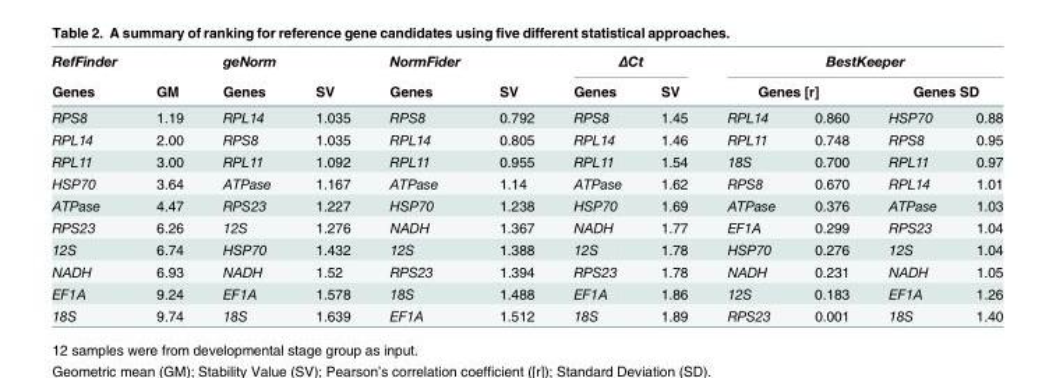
<table><thead><tr><td rowspan="3">RefFinder Genes RPS8</td><td rowspan="3">GM 1.19</td><td rowspan="3">geNorm Genes RPL14</td><td rowspan="3">SV 1.035</td><td rowspan="3">NormFider Genes RPS8</td><td rowspan="3">SV 0.792</td><td colspan="2">ΔCt</td><td colspan="4">BestKeeper</td></tr><tr><td rowspan="2">Genes RPS8</td><td rowspan="2">SV 1.45</td><td colspan="2">Genes [r]</td><td colspan="2">Genes SD</td></tr><tr><td>RPL14</td><td>0.860</td><td>HSP70</td><td>0.88</td></tr></thead><tbody><tr><td>RPL14</td><td>2.00</td><td>RPS8</td><td>1.035</td><td>RPL14</td><td>0.805</td><td>RPL14</td><td>1.46</td><td>RPL11</td><td>0.748</td><td>RPS8</td><td>0.95</td></tr><tr><td>RPL11</td><td>3.00</td><td>RPL11</td><td>1.092</td><td>RPL11</td><td>0.955</td><td>RPL11</td><td>1.54</td><td>18S</td><td>0.700</td><td>RPL11</td><td>0.97</td></tr><tr><td>HSP70</td><td>3.64</td><td>ATPase</td><td>1.167</td><td>ATPase</td><td>1.14</td><td>ATPase</td><td>1.62</td><td>RPS8</td><td>0.670</td><td>RPL14</td><td>1.01</td></tr><tr><td>ATPase</td><td>4.47</td><td>RPS23</td><td>1.227</td><td>HSP70</td><td>1.238</td><td>HSP70</td><td>1.69</td><td>ATPase</td><td>0.376</td><td>ATPase</td><td>1.03</td></tr><tr><td>RPS23</td><td>6.26</td><td>12S</td><td>1.276</td><td>NADH</td><td>1.367</td><td>NADH</td><td>1.77</td><td>EF1A</td><td>0.299</td><td>RPS23</td><td>1.04</td></tr><tr><td>12S</td><td>6.74</td><td>HSP70</td><td>1.432</td><td>12S</td><td>1.388</td><td>12S</td><td>1.78</td><td>HSP70</td><td>0.276</td><td>12S</td><td>1.04</td></tr><tr><td>NADH</td><td>6.93</td><td>NADH</td><td>1.52</td><td>RPS23</td><td>1.394</td><td>RPS23</td><td>1.78</td><td>NADH</td><td>0.231</td><td>NADH</td><td>1.05</td></tr><tr><td>EF1A</td><td>9.24</td><td>EF1A</td><td>1.578</td><td>18S</td><td>1.488</td><td>EF1A</td><td>1.86</td><td>12S</td><td>0.183</td><td>EF1A</td><td>1.26</td></tr><tr><td>18S</td><td>9.74</td><td>18S</td><td>1.639</td><td>EF1A</td><td>1.512</td><td>18S</td><td>1.89</td><td>RPS23</td><td>0.001</td><td>18S</td><td>1.40</td></tr></tbody></table>